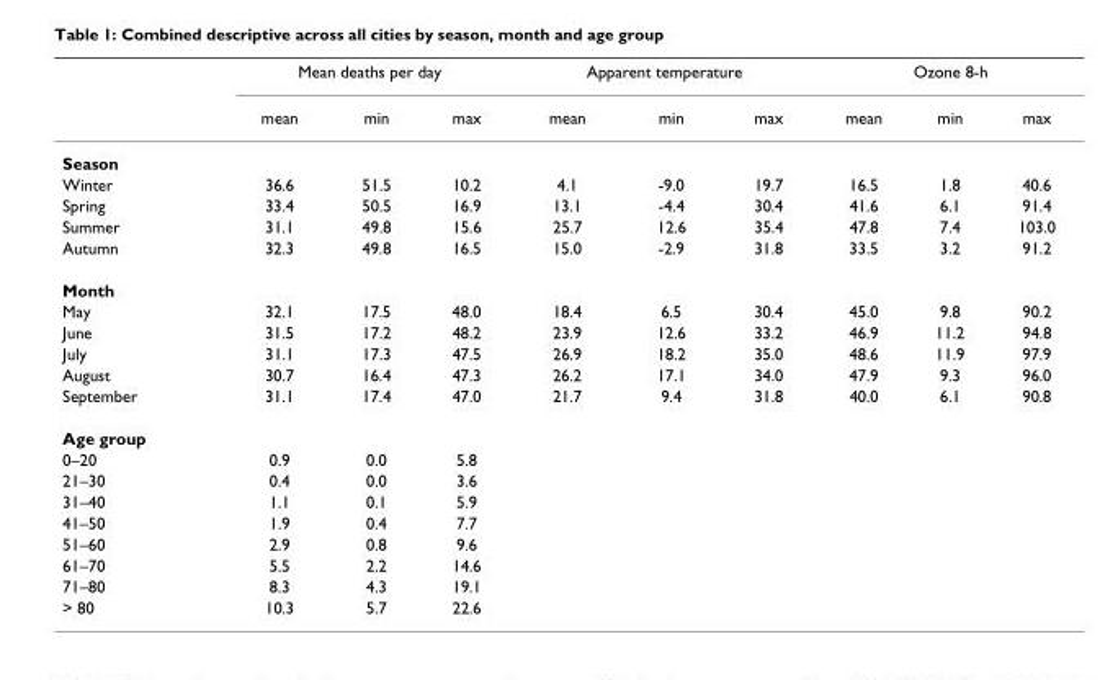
<table><thead><tr><td rowspan="2"></td><td colspan="3">Mean deaths per day</td><td colspan="3">Apparent temperature</td><td colspan="3">Ozone 8-h</td></tr><tr><td>mean</td><td>min</td><td>max</td><td>mean</td><td>min</td><td>max</td><td>mean</td><td>min</td><td>max</td></tr></thead><tbody><tr><td colspan="10">Season</td></tr><tr><td>Winter</td><td>36.6</td><td>51.5</td><td>10.2</td><td>4.1</td><td>-9.0</td><td>19.7</td><td>16.5</td><td>1.8</td><td>40.6</td></tr><tr><td>Spring</td><td>33.4</td><td>50.5</td><td>16.9</td><td>13.1</td><td>-4.4</td><td>30.4</td><td>41.6</td><td>6.1</td><td>91.4</td></tr><tr><td>Summer</td><td>31.1</td><td>49.8</td><td>15.6</td><td>25.7</td><td>12.6</td><td>35.4</td><td>47.8</td><td>7.4</td><td>103.0</td></tr><tr><td>Autumn</td><td>32.3</td><td>49.8</td><td>16.5</td><td>15.0</td><td>-2.9</td><td>31.8</td><td>33.5</td><td>3.2</td><td>91.2</td></tr><tr><td colspan="10">Month</td></tr><tr><td>May</td><td>32.1</td><td>17.5</td><td>48.0</td><td>18.4</td><td>6.5</td><td>30.4</td><td>45.0</td><td>9.8</td><td>90.2</td></tr><tr><td>June</td><td>31.5</td><td>17.2</td><td>48.2</td><td>23.9</td><td>12.6</td><td>33.2</td><td>46.9</td><td>11.2</td><td>94.8</td></tr><tr><td>July</td><td>31.1</td><td>17.3</td><td>47.5</td><td>26.9</td><td>18.2</td><td>35.0</td><td>48.6</td><td>11.9</td><td>97.9</td></tr><tr><td>August</td><td>30.7</td><td>16.4</td><td>47.3</td><td>26.2</td><td>17.1</td><td>34.0</td><td>47.9</td><td>9.3</td><td>96.0</td></tr><tr><td>September</td><td>31.1</td><td>17.4</td><td>47.0</td><td>21.7</td><td>9.4</td><td>31.8</td><td>40.0</td><td>6.1</td><td>90.8</td></tr><tr><td colspan="10">Age group</td></tr><tr><td>0–20</td><td>0.9</td><td>0.0</td><td>5.8</td><td></td><td></td><td></td><td></td><td></td><td></td></tr><tr><td>21–30</td><td>0.4</td><td>0.0</td><td>3.6</td><td></td><td></td><td></td><td></td><td></td><td></td></tr><tr><td>31–40</td><td>1.1</td><td>0.1</td><td>5.9</td><td></td><td></td><td></td><td></td><td></td><td></td></tr><tr><td>41–50</td><td>1.9</td><td>0.4</td><td>7.7</td><td></td><td></td><td></td><td></td><td></td><td></td></tr><tr><td>51–60</td><td>2.9</td><td>0.8</td><td>9.6</td><td></td><td></td><td></td><td></td><td></td><td></td></tr><tr><td>61–70</td><td>5.5</td><td>2.2</td><td>14.6</td><td></td><td></td><td></td><td></td><td></td><td></td></tr><tr><td>71–80</td><td>8.3</td><td>4.3</td><td>19.1</td><td></td><td></td><td></td><td></td><td></td><td></td></tr><tr><td>&gt; 80</td><td>10.3</td><td>5.7</td><td>22.6</td><td></td><td></td><td></td><td></td><td></td><td></td></tr></tbody></table>